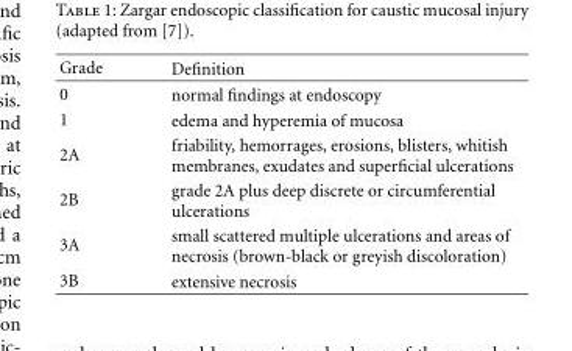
<table><thead><tr><td>Grade</td><td>Definition</td></tr></thead><tbody><tr><td>0</td><td>normal findings at endoscopy</td></tr><tr><td>1</td><td>edema and hyperemia of mucosa</td></tr><tr><td>2A</td><td>friability, hemorrages, erosions, blisters, whitish membranes, exudates and superficial ulcerations</td></tr><tr><td>2B</td><td>grade 2A plus deep discrete or circumferential ulcerations</td></tr><tr><td>3A</td><td>small scattered multiple ulcerations and areas of necrosis (brown-black or greyish discoloration)</td></tr><tr><td>3B</td><td>extensive necrosis</td></tr></tbody></table>